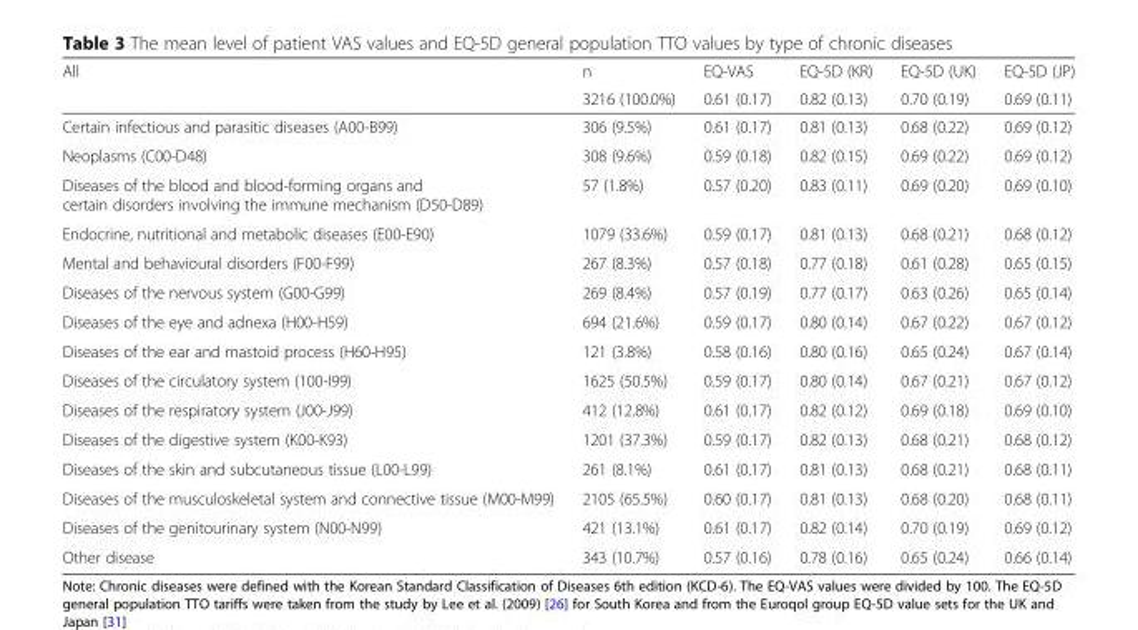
<table><thead><tr><td rowspan="2">All</td><td rowspan="2">n 3216 (100.0%)</td><td rowspan="2">EQ-VAS 0.61 (0.17)</td><td rowspan="2">EQ-5D (KR) 0.82 (0.13)</td><td rowspan="2">EQ-5D (UK) 0.70 (0.19)</td><td rowspan="2">EQ-5D (JP) 0.69 (0.11)</td></tr><tr></tr></thead><tbody><tr><td>Certain infectious and parasitic diseases (A00-B99)</td><td>306 (9.5%)</td><td>0.61 (0.17)</td><td>0.81 (0.13)</td><td>0.68 (0.22)</td><td>0.69 (0.12)</td></tr><tr><td>Neoplasms (C00-D48)</td><td>308 (9.6%)</td><td>0.59 (0.18)</td><td>0.82 (0.15)</td><td>0.69 (0.22)</td><td>0.69 (0.12)</td></tr><tr><td>Diseases of the blood and blood-forming organs and certain disorders involving the immune mechanism (D50-D89)</td><td>57 (1.8%)</td><td>0.57 (0.20)</td><td>0.83 (0.11)</td><td>0.69 (0.20)</td><td>0.69 (0.10)</td></tr><tr><td>Endocrine, nutritional and metabolic diseases (E00-E90)</td><td>1079 (33.6%)</td><td>0.59 (0.17)</td><td>0.81 (0.13)</td><td>0.68 (0.21)</td><td>0.68 (0.12)</td></tr><tr><td>Mental and behavioural disorders (F00-F99)</td><td>267 (8.3%)</td><td>0.57 (0.18)</td><td>0.77 (0.18)</td><td>0.61 (0.28)</td><td>0.65 (0.15)</td></tr><tr><td>Diseases of the nervous system (G00-G99)</td><td>269 (8.4%)</td><td>0.57 (0.19)</td><td>0.77 (0.17)</td><td>0.63 (0.26)</td><td>0.65 (0.14)</td></tr><tr><td>Diseases of the eye and adnexa (H00-H59)</td><td>694 (21.6%)</td><td>0.59 (0.17)</td><td>0.80 (0.14)</td><td>0.67 (0.22)</td><td>0.67 (0.12)</td></tr><tr><td>Diseases of the ear and mastoid process (H60-H95)</td><td>121 (3.8%)</td><td>0.58 (0.16)</td><td>0.80 (0.16)</td><td>0.65 (0.24)</td><td>0.67 (0.14)</td></tr><tr><td>Diseases of the circulatory system (100-I99)</td><td>1625 (50.5%)</td><td>0.59 (0.17)</td><td>0.80 (0.14)</td><td>0.67 (0.21)</td><td>0.67 (0.12)</td></tr><tr><td>Diseases of the respiratory system (J00-J99)</td><td>412 (12.8%)</td><td>0.61 (0.17)</td><td>0.82 (0.12)</td><td>0.69 (0.18)</td><td>0.69 (0.10)</td></tr><tr><td>Diseases of the digestive system (K00-K93)</td><td>1201 (37.3%)</td><td>0.59 (0.17)</td><td>0.82 (0.13)</td><td>0.68 (0.21)</td><td>0.68 (0.12)</td></tr><tr><td>Diseases of the skin and subcutaneous tissue (L00-L99)</td><td>261 (8.1%)</td><td>0.61 (0.17)</td><td>0.81 (0.13)</td><td>0.68 (0.21)</td><td>0.68 (0.11)</td></tr><tr><td>Diseases of the musculoskeletal system and connective tissue (M00-M99)</td><td>2105 (65.5%)</td><td>0.60 (0.17)</td><td>0.81 (0.13)</td><td>0.68 (0.20)</td><td>0.68 (0.11)</td></tr><tr><td>Diseases of the genitourinary system (N00-N99)</td><td>421 (13.1%)</td><td>0.61 (0.17)</td><td>0.82 (0.14)</td><td>0.70 (0.19)</td><td>0.69 (0.12)</td></tr><tr><td>Other disease</td><td>343 (10.7%)</td><td>0.57 (0.16)</td><td>0.78 (0.16)</td><td>0.65 (0.24)</td><td>0.66 (0.14)</td></tr></tbody></table>